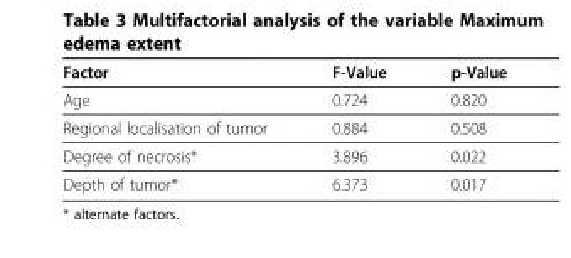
<table><thead><tr><td>Factor</td><td>F-Value</td><td>p-Value</td></tr></thead><tbody><tr><td>Age</td><td>0.724</td><td>0.820</td></tr><tr><td>Regional localisation of tumor</td><td>0.884</td><td>0.508</td></tr><tr><td>Degree of necrosis*</td><td>3.896</td><td>0.022</td></tr><tr><td>Depth of tumor*</td><td>6.373</td><td>0.017</td></tr></tbody></table>